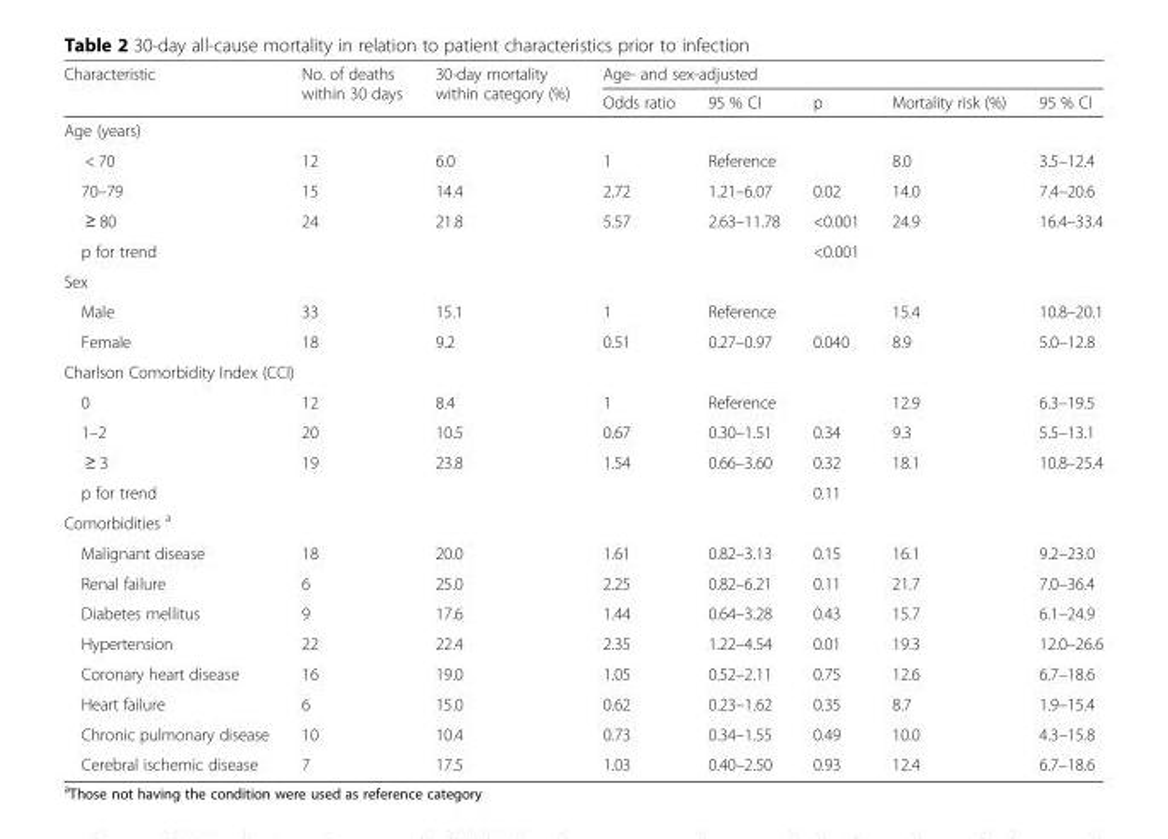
<table><thead><tr><td rowspan="2">Characteristic</td><td rowspan="2">No. of deaths within 30 days</td><td rowspan="2">30-day mortality within category (%)</td><td colspan="5">Age- and sex-adjusted</td></tr><tr><td>Odds ratio</td><td>95 % CI</td><td>p</td><td>Mortality risk (%)</td><td>95 % CI</td></tr></thead><tbody><tr><td colspan="8">Age (years)</td></tr><tr><td>&lt; 70</td><td>12</td><td>6.0</td><td>1</td><td>Reference</td><td></td><td>8.0</td><td>3.5–12.4</td></tr><tr><td>70–79</td><td>15</td><td>14.4</td><td>2.72</td><td>1.21–6.07</td><td>0.02</td><td>14.0</td><td>7.4–20.6</td></tr><tr><td>≥ 80</td><td>24</td><td>21.8</td><td>5.57</td><td>2.63–11.78</td><td>&lt;0.001</td><td>24.9</td><td>16.4–33.4</td></tr><tr><td>p for trend</td><td></td><td></td><td></td><td></td><td>&lt;0.001</td><td></td><td></td></tr><tr><td colspan="8">Sex</td></tr><tr><td>Male</td><td>33</td><td>15.1</td><td>1</td><td>Reference</td><td></td><td>15.4</td><td>10.8–20.1</td></tr><tr><td>Female</td><td>18</td><td>9.2</td><td>0.51</td><td>0.27–0.97</td><td>0.040</td><td>8.9</td><td>5.0–12.8</td></tr><tr><td colspan="8">Charlson Comorbidity Index (CCI)</td></tr><tr><td>0</td><td>12</td><td>8.4</td><td>1</td><td>Reference</td><td></td><td>12.9</td><td>6.3–19.5</td></tr><tr><td>1–2</td><td>20</td><td>10.5</td><td>0.67</td><td>0.30–1.51</td><td>0.34</td><td>9.3</td><td>5.5–13.1</td></tr><tr><td>≥ 3</td><td>19</td><td>23.8</td><td>1.54</td><td>0.66–3.60</td><td>0.32</td><td>18.1</td><td>10.8–25.4</td></tr><tr><td>p for trend</td><td></td><td></td><td></td><td></td><td>0.11</td><td></td><td></td></tr><tr><td colspan="8">Comorbidities <sup>a</sup></td></tr><tr><td>Malignant disease</td><td>18</td><td>20.0</td><td>1.61</td><td>0.82–3.13</td><td>0.15</td><td>16.1</td><td>9.2–23.0</td></tr><tr><td>Renal failure</td><td>6</td><td>25.0</td><td>2.25</td><td>0.82–6.21</td><td>0.11</td><td>21.7</td><td>7.0–36.4</td></tr><tr><td>Diabetes mellitus</td><td>9</td><td>17.6</td><td>1.44</td><td>0.64–3.28</td><td>0.43</td><td>15.7</td><td>6.1–24.9</td></tr><tr><td>Hypertension</td><td>22</td><td>22.4</td><td>2.35</td><td>1.22–4.54</td><td>0.01</td><td>19.3</td><td>12.0–26.6</td></tr><tr><td>Coronary heart disease</td><td>16</td><td>19.0</td><td>1.05</td><td>0.52–2.11</td><td>0.75</td><td>12.6</td><td>6.7–18.6</td></tr><tr><td>Heart failure</td><td>6</td><td>15.0</td><td>0.62</td><td>0.23–1.62</td><td>0.35</td><td>8.7</td><td>1.9–15.4</td></tr><tr><td>Chronic pulmonary disease</td><td>10</td><td>10.4</td><td>0.73</td><td>0.34–1.55</td><td>0.49</td><td>10.0</td><td>4.3–15.8</td></tr><tr><td>Cerebral ischemic disease</td><td>7</td><td>17.5</td><td>1.03</td><td>0.40–2.50</td><td>0.93</td><td>12.4</td><td>6.7–18.6</td></tr></tbody></table>